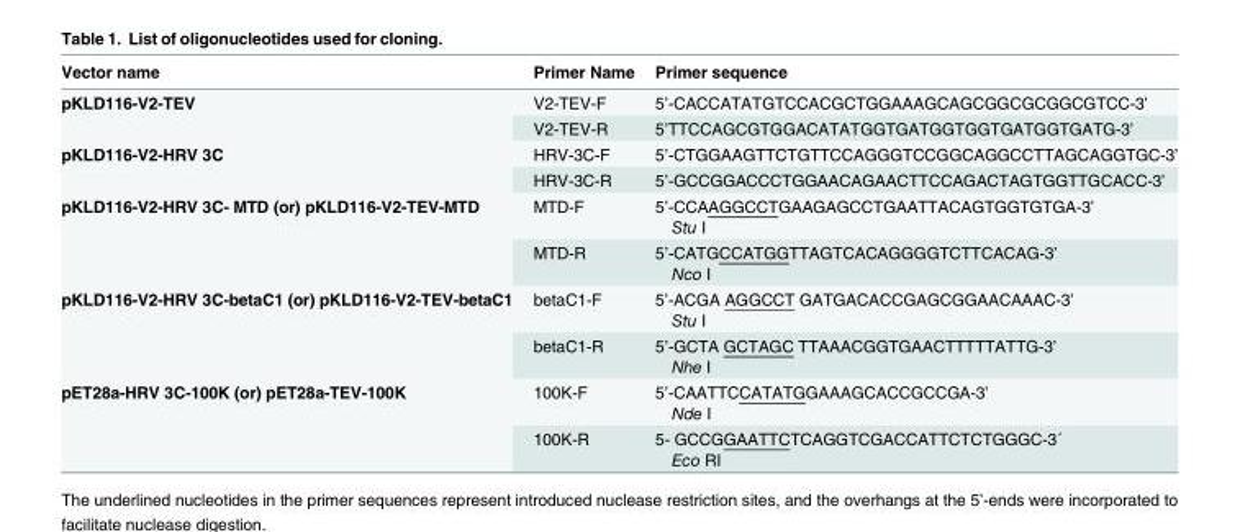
<table><thead><tr><td>Vector name</td><td>Primer Name</td><td>Primer sequence</td></tr></thead><tbody><tr><td rowspan="2">pKLD116-V2-TEV</td><td>V2-TEV-F</td><td>5’-CACCATATGTCCACGCTGGAAAGCAGCGGCGCGGCGTCC-3’</td></tr><tr><td>V2-TEV-R</td><td>5’TTCCAGCGTGGACATATGGTGATGGTGGTGATGGTGATG-3’</td></tr><tr><td rowspan="2">pKLD116-V2-HRV 3C</td><td>HRV-3C-F</td><td>5’-CTGGAAGTTCTGTTCCAGGGTCCGGCAGGCCTTAGCAGGTGC-3’</td></tr><tr><td>HRV-3C-R</td><td>5’-GCCGGACCCTGGAACAGAACTTCCAGACTAGTGGTTGCACC-3’</td></tr><tr><td rowspan="2">pKLD116-V2-HRV 3C- MTD (or) pKLD116-V2-TEV-MTD</td><td>MTD-F</td><td>5’-CCAAGGCCTGAAGAGCCTGAATTACAGTGGTGTGA-3’ Stu I</td></tr><tr><td>MTD-R</td><td>5’-CATGCCATGGTTAGTCACAGGGGTCTTCACAG-3’ Nco I</td></tr><tr><td rowspan="2">pKLD116-V2-HRV 3C-betaC1 (or) pKLD116-V2-TEV-betaC1</td><td>betaC1-F</td><td>5’-ACGA AGGCCT GATGACACCGAGCGGAACAAAC-3’ Stu I</td></tr><tr><td>betaC1-R</td><td>5’-GCTA GCTAGC TTAAACGGTGAACTTTTTATTG-3’ Nhe I</td></tr><tr><td rowspan="2">pET28a-HRV 3C-100K (or) pET28a-TEV-100K</td><td>100K-F</td><td>5’-CAATTCCATATGGAAAGCACCGCCGA-3’ Nde I</td></tr><tr><td>100K-R</td><td>5- GCCGGAATTCTCAGGTCGACCATTCTCTGGGC-3´ Eco RI</td></tr></tbody></table>